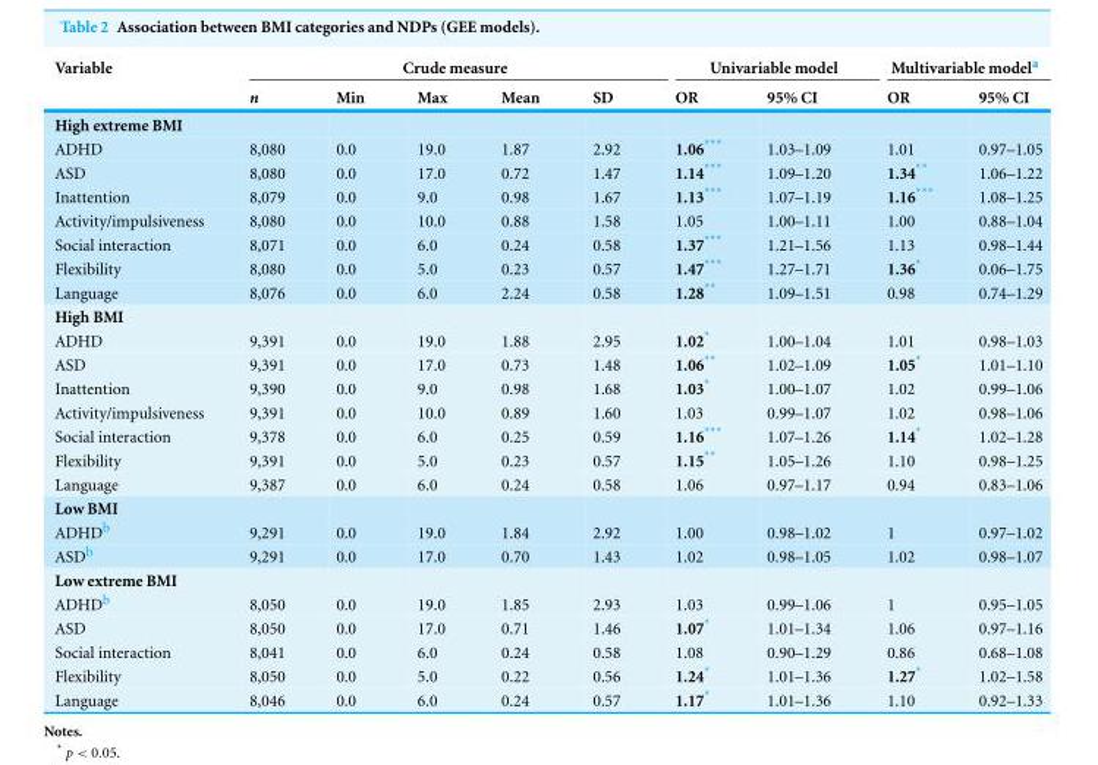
<table><thead><tr><td rowspan="2">Variable</td><td colspan="5">Crude measure</td><td colspan="2">Univariable model</td><td colspan="2">Multivariable model<sup>a</sup></td></tr><tr><td>n</td><td>Min</td><td>Max</td><td>Mean</td><td>SD</td><td>OR</td><td>95% CI</td><td>OR</td><td>95% CI</td></tr></thead><tbody><tr><td colspan="10">High extreme BMI</td></tr><tr><td>ADHD</td><td>8,080</td><td>0.0</td><td>19.0</td><td>1.87</td><td>2.92</td><td>1.06***</td><td>1.03–1.09</td><td>1.01</td><td>0.97–1.05</td></tr><tr><td>ASD</td><td>8,080</td><td>0.0</td><td>17.0</td><td>0.72</td><td>1.47</td><td>1.14***</td><td>1.09–1.20</td><td>1.34**</td><td>1.06–1.22</td></tr><tr><td>Inattention</td><td>8,079</td><td>0.0</td><td>9.0</td><td>0.98</td><td>1.67</td><td>1.13***</td><td>1.07–1.19</td><td>1.16***</td><td>1.08–1.25</td></tr><tr><td>Activity/impulsiveness</td><td>8,080</td><td>0.0</td><td>10.0</td><td>0.88</td><td>1.58</td><td>1.05</td><td>1.00–1.11</td><td>1.00</td><td>0.88–1.04</td></tr><tr><td>Social interaction</td><td>8,071</td><td>0.0</td><td>6.0</td><td>0.24</td><td>0.58</td><td>1.37***</td><td>1.21–1.56</td><td>1.13</td><td>0.98–1.44</td></tr><tr><td>Flexibility</td><td>8,080</td><td>0.0</td><td>5.0</td><td>0.23</td><td>0.57</td><td>1.47***</td><td>1.27–1.71</td><td>1.36*</td><td>0.06–1.75</td></tr><tr><td>Language</td><td>8,076</td><td>0.0</td><td>6.0</td><td>2.24</td><td>0.58</td><td>1.28**</td><td>1.09–1.51</td><td>0.98</td><td>0.74–1.29</td></tr><tr><td colspan="10">High BMI</td></tr><tr><td>ADHD</td><td>9,391</td><td>0.0</td><td>19.0</td><td>1.88</td><td>2.95</td><td>1.02*</td><td>1.00–1.04</td><td>1.01</td><td>0.98–1.03</td></tr><tr><td>ASD</td><td>9,391</td><td>0.0</td><td>17.0</td><td>0.73</td><td>1.48</td><td>1.06**</td><td>1.02–1.09</td><td>1.05*</td><td>1.01–1.10</td></tr><tr><td>Inattention</td><td>9,390</td><td>0.0</td><td>9.0</td><td>0.98</td><td>1.68</td><td>1.03*</td><td>1.00–1.07</td><td>1.02</td><td>0.99–1.06</td></tr><tr><td>Activity/impulsiveness</td><td>9,391</td><td>0.0</td><td>10.0</td><td>0.89</td><td>1.60</td><td>1.03</td><td>0.99–1.07</td><td>1.02</td><td>0.98–1.06</td></tr><tr><td>Social interaction</td><td>9,378</td><td>0.0</td><td>6.0</td><td>0.25</td><td>0.59</td><td>1.16***</td><td>1.07–1.26</td><td>1.14*</td><td>1.02–1.28</td></tr><tr><td>Flexibility</td><td>9,391</td><td>0.0</td><td>5.0</td><td>0.23</td><td>0.57</td><td>1.15**</td><td>1.05–1.26</td><td>1.10</td><td>0.98–1.25</td></tr><tr><td>Language</td><td>9,387</td><td>0.0</td><td>6.0</td><td>0.24</td><td>0.58</td><td>1.06</td><td>0.97–1.17</td><td>0.94</td><td>0.83–1.06</td></tr><tr><td colspan="10">Low BMI</td></tr><tr><td>ADHD<sup>b</sup></td><td>9,291</td><td>0.0</td><td>19.0</td><td>1.84</td><td>2.92</td><td>1.00</td><td>0.98–1.02</td><td>1</td><td>0.97–1.02</td></tr><tr><td>ASD<sup>b</sup></td><td>9,291</td><td>0.0</td><td>17.0</td><td>0.70</td><td>1.43</td><td>1.02</td><td>0.98–1.05</td><td>1.02</td><td>0.98–1.07</td></tr><tr><td colspan="10">Low extreme BMI</td></tr><tr><td>ADHD<sup>b</sup></td><td>8,050</td><td>0.0</td><td>19.0</td><td>1.85</td><td>2.93</td><td>1.03</td><td>0.99–1.06</td><td>1</td><td>0.95–1.05</td></tr><tr><td>ASD</td><td>8,050</td><td>0.0</td><td>17.0</td><td>0.71</td><td>1.46</td><td>1.07*</td><td>1.01–1.34</td><td>1.06</td><td>0.97–1.16</td></tr><tr><td>Social interaction</td><td>8,041</td><td>0.0</td><td>6.0</td><td>0.24</td><td>0.58</td><td>1.08</td><td>0.90–1.29</td><td>0.86</td><td>0.68–1.08</td></tr><tr><td>Flexibility</td><td>8,050</td><td>0.0</td><td>5.0</td><td>0.22</td><td>0.56</td><td>1.24*</td><td>1.01–1.36</td><td>1.27*</td><td>1.02–1.58</td></tr><tr><td>Language</td><td>8,046</td><td>0.0</td><td>6.0</td><td>0.24</td><td>0.57</td><td>1.17*</td><td>1.01–1.36</td><td>1.10</td><td>0.92–1.33</td></tr></tbody></table>